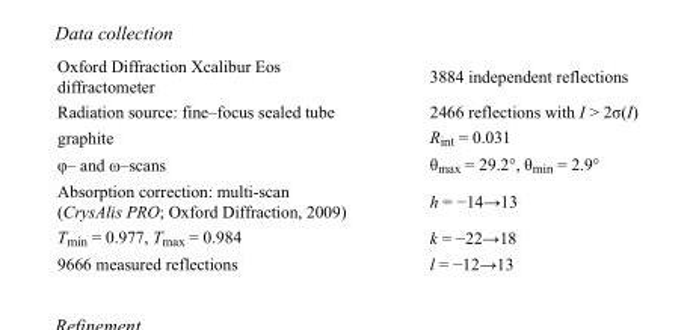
<table><tbody><tr><td>Oxford Diffraction Xcalibur Eos diffractometer</td><td>3884 independent reflections</td></tr><tr><td>Radiation source: fine–focus sealed tube</td><td>2466 reflections with I &gt; 2σ(I)</td></tr><tr><td>graphite</td><td>R<sub>int</sub> = 0.031</td></tr><tr><td>φ– and ω–scans</td><td>θ<sub>max</sub> = 29.2°, θ<sub>min</sub> = 2.9°</td></tr><tr><td>Absorption correction: multi-scan (CrysAlis PRO; Oxford Diffraction, 2009)</td><td>h = −14→13</td></tr><tr><td>T<sub>min</sub> = 0.977, T<sub>max</sub> = 0.984</td><td>k = −22→18</td></tr><tr><td>9666 measured reflections</td><td>l = −12→13</td></tr></tbody></table>